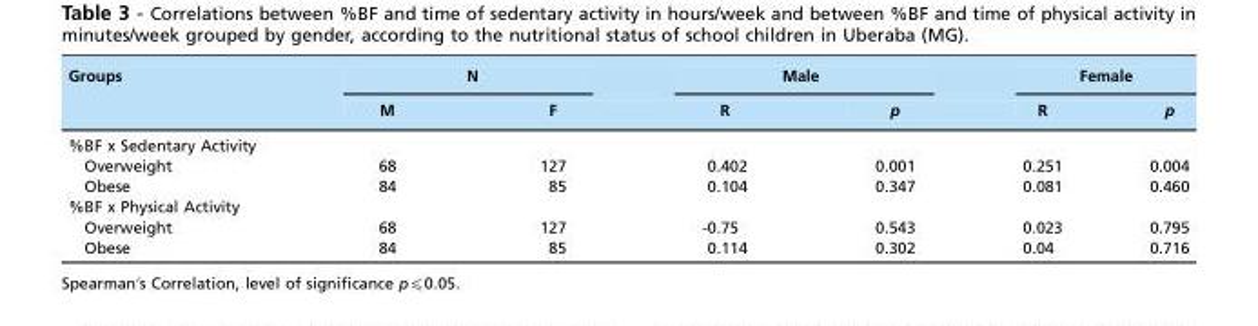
<table><thead><tr><td rowspan="2">Groups</td><td colspan="2">N</td><td colspan="2">Male</td><td colspan="2">Female</td></tr><tr><td>M</td><td>F</td><td>R</td><td>p</td><td>R</td><td>p</td></tr></thead><tbody><tr><td colspan="7">%BF x Sedentary Activity</td></tr><tr><td>Overweight</td><td>68</td><td>127</td><td>0.402</td><td>0.001</td><td>0.251</td><td>0.004</td></tr><tr><td>Obese</td><td>84</td><td>85</td><td>0.104</td><td>0.347</td><td>0.081</td><td>0.460</td></tr><tr><td colspan="7">%BF x Physical Activity</td></tr><tr><td>Overweight</td><td>68</td><td>127</td><td>-0.75</td><td>0.543</td><td>0.023</td><td>0.795</td></tr><tr><td>Obese</td><td>84</td><td>85</td><td>0.114</td><td>0.302</td><td>0.04</td><td>0.716</td></tr></tbody></table>